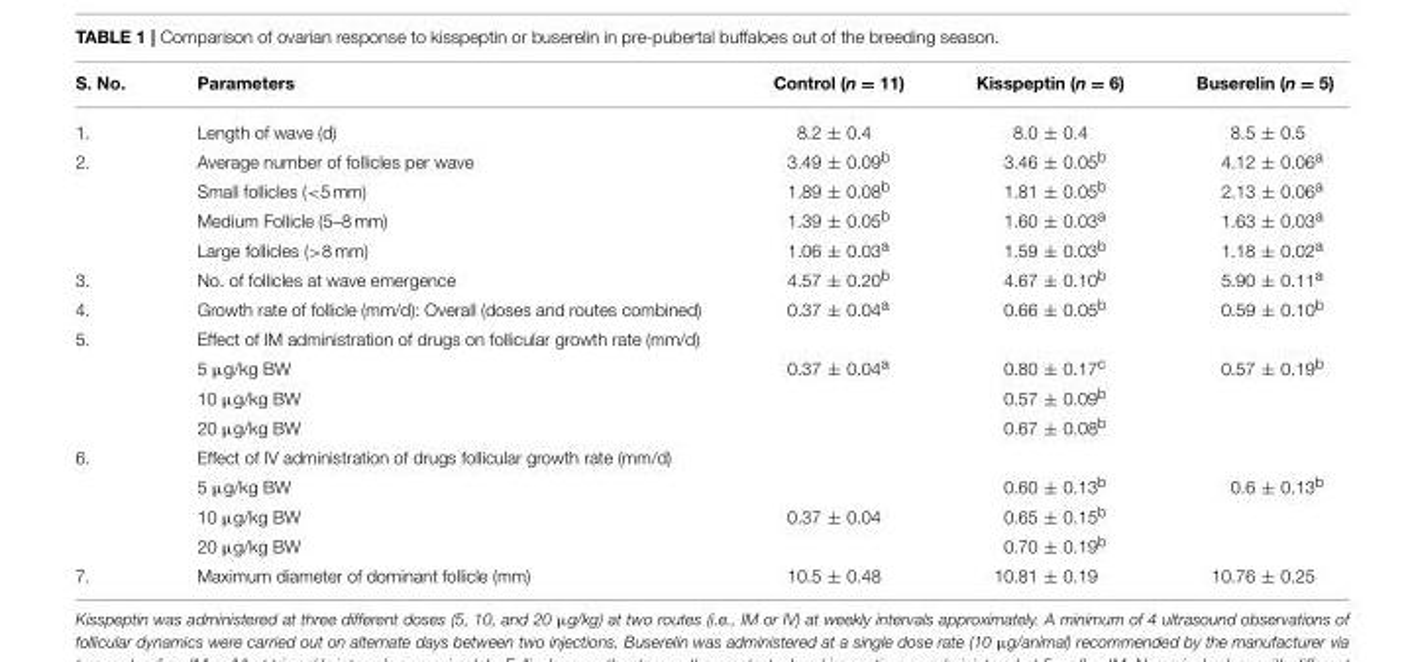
<table><thead><tr><td>S. No.</td><td>Parameters</td><td>Control (n = 11)</td><td>Kisspeptin (n = 6)</td><td>Buserelin (n = 5)</td></tr></thead><tbody><tr><td>1.</td><td>Length of wave (d)</td><td>8.2 ± 0.4</td><td>8.0 ± 0.4</td><td>8.5 ± 0.5</td></tr><tr><td rowspan="4">2.</td><td>Average number of follicles per wave</td><td>3.49 ± 0.09<sup>b</sup></td><td>3.46 ± 0.05<sup>b</sup></td><td>4.12 ± 0.06<sup>a</sup></td></tr><tr><td>Small follicles (&lt;5 mm)</td><td>1.89 ± 0.08<sup>b</sup></td><td>1.81 ± 0.05<sup>b</sup></td><td>2.13 ± 0.06<sup>a</sup></td></tr><tr><td>Medium Follicle (5–8 mm)</td><td>1.39 ± 0.05<sup>b</sup></td><td>1.60 ± 0.03<sup>a</sup></td><td>1.63 ± 0.03<sup>a</sup></td></tr><tr><td>Large follicles (&gt;8 mm)</td><td>1.06 ± 0.03<sup>a</sup></td><td>1.59 ± 0.03<sup>b</sup></td><td>1.18 ± 0.02<sup>a</sup></td></tr><tr><td>3.</td><td>No. of follicles at wave emergence</td><td>4.57 ± 0.20<sup>b</sup></td><td>4.67 ± 0.10<sup>b</sup></td><td>5.90 ± 0.11<sup>a</sup></td></tr><tr><td>4.</td><td>Growth rate of follicle (mm/d): Overall (doses and routes combined)</td><td>0.37 ± 0.04<sup>a</sup></td><td>0.66 ± 0.05<sup>b</sup></td><td>0.59 ± 0.10<sup>b</sup></td></tr><tr><td rowspan="4">5.</td><td>Effect of IM administration of drugs on follicular growth rate (mm/d)</td><td></td><td></td><td></td></tr><tr><td>5 µg/kg BW</td><td>0.37 ± 0.04<sup>a</sup></td><td>0.80 ± 0.17<sup>c</sup></td><td>0.57 ± 0.19<sup>b</sup></td></tr><tr><td>10 µg/kg BW</td><td></td><td>0.57 ± 0.09<sup>b</sup></td><td></td></tr><tr><td>20 µg/kg BW</td><td></td><td>0.67 ± 0.08<sup>b</sup></td><td></td></tr><tr><td rowspan="4">6.</td><td>Effect of IV administration of drugs follicular growth rate (mm/d)</td><td></td><td></td><td></td></tr><tr><td>5 µg/kg BW</td><td></td><td>0.60 ± 0.13<sup>b</sup></td><td>0.6 ± 0.13<sup>b</sup></td></tr><tr><td>10 µg/kg BW</td><td>0.37 ± 0.04</td><td>0.65 ± 0.15<sup>b</sup></td><td></td></tr><tr><td>20 µg/kg BW</td><td></td><td>0.70 ± 0.19<sup>b</sup></td><td></td></tr><tr><td>7.</td><td>Maximum diameter of dominant follicle (mm)</td><td>10.5 ± 0.48</td><td>10.81 ± 0.19</td><td>10.76 ± 0.25</td></tr></tbody></table>